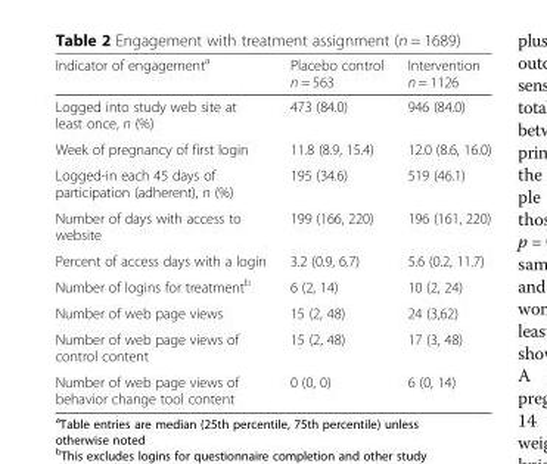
<table><thead><tr><td>Indicator of engagement<sup>a</sup></td><td>Placebo control n = 563</td><td>Intervention n = 1126</td></tr></thead><tbody><tr><td>Logged into study web site at least once, n (%)</td><td>473 (84.0)</td><td>946 (84.0)</td></tr><tr><td>Week of pregnancy of first login</td><td>11.8 (8.9, 15.4)</td><td>12.0 (8.6, 16.0)</td></tr><tr><td>Logged-in each 45 days of participation (adherent), n (%)</td><td>195 (34.6)</td><td>519 (46.1)</td></tr><tr><td>Number of days with access to website</td><td>199 (166, 220)</td><td>196 (161, 220)</td></tr><tr><td>Percent of access days with a login</td><td>3.2 (0.9, 6.7)</td><td>5.6 (0.2, 11.7)</td></tr><tr><td>Number of logins for treatment<sup>b</sup></td><td>6 (2, 14)</td><td>10 (2, 24)</td></tr><tr><td>Number of web page views</td><td>15 (2, 48)</td><td>24 (3,62)</td></tr><tr><td>Number of web page views of control content</td><td>15 (2, 48)</td><td>17 (3, 48)</td></tr><tr><td>Number of web page views of behavior change tool content</td><td>0 (0, 0)</td><td>6 (0, 14)</td></tr></tbody></table>